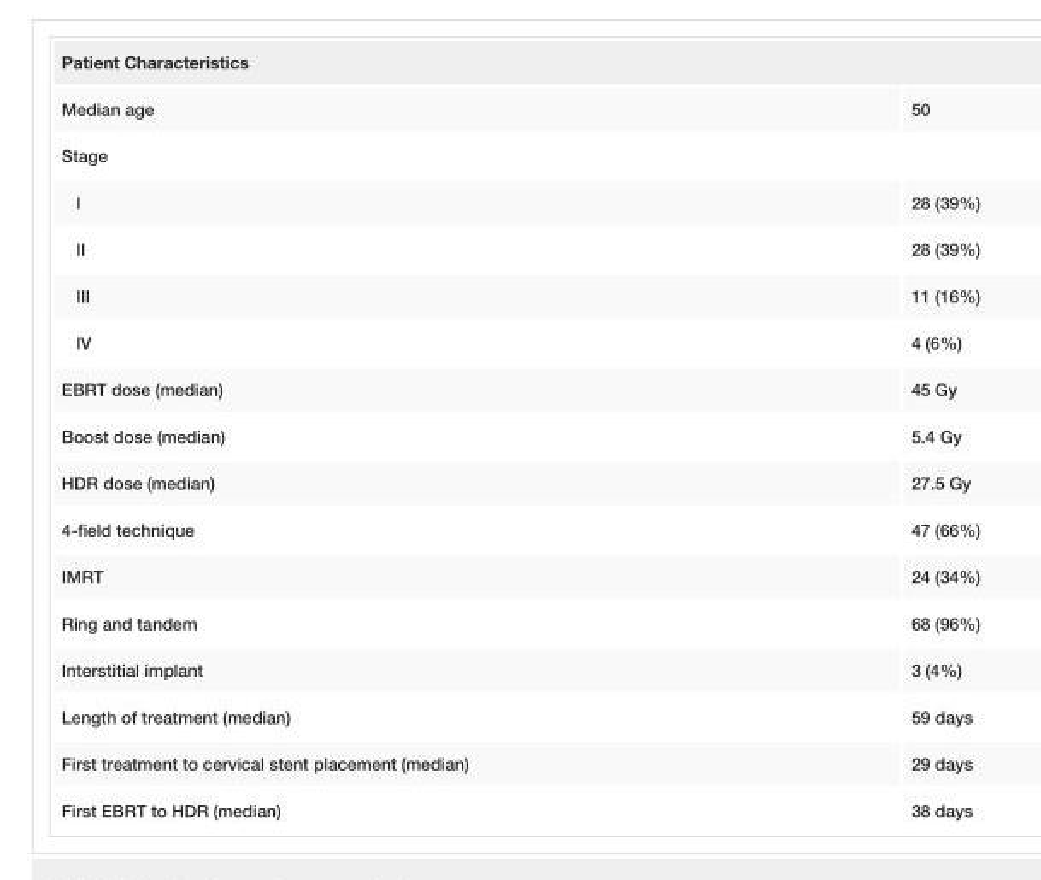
<table><tbody><tr><td colspan="2">Patient Characteristics</td></tr><tr><td>Median age</td><td>50</td></tr><tr><td colspan="2">Stage</td></tr><tr><td>I</td><td>28 (39%)</td></tr><tr><td>II</td><td>28 (39%)</td></tr><tr><td>III</td><td>11 (16%)</td></tr><tr><td>IV</td><td>4 (6%)</td></tr><tr><td>EBRT dose (median)</td><td>45 Gy</td></tr><tr><td>Boost dose (median)</td><td>5.4 Gy</td></tr><tr><td>HDR dose (median)</td><td>27.5 Gy</td></tr><tr><td>4-field technique</td><td>47 (66%)</td></tr><tr><td>IMRT</td><td>24 (34%)</td></tr><tr><td>Ring and tandem</td><td>68 (96%)</td></tr><tr><td>Interstitial implant</td><td>3 (4%)</td></tr><tr><td>Length of treatment (median)</td><td>59 days</td></tr><tr><td>First treatment to cervical stent placement (median)</td><td>29 days</td></tr><tr><td>First EBRT to HDR (median)</td><td>38 days</td></tr></tbody></table>